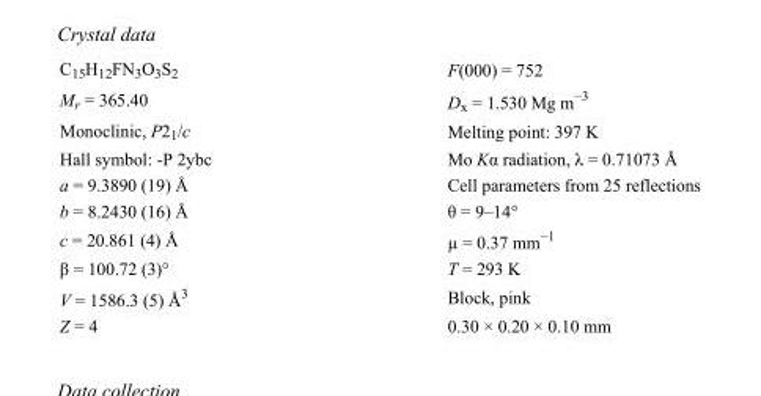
<table><tbody><tr><td>C<sub>15</sub>H<sub>12</sub>FN<sub>3</sub>O<sub>3</sub>S<sub>2</sub></td><td>F(000) = 752</td></tr><tr><td>M<sub>r</sub> = 365.40</td><td>D<sub>x</sub> = 1.530 Mg m<sup>−3</sup></td></tr><tr><td>Monoclinic, P2<sub>1</sub>/c</td><td>Melting point: 397 K</td></tr><tr><td>Hall symbol: -P 2ybc</td><td>Mo Kα radiation, λ = 0.71073 Å</td></tr><tr><td>a = 9.3890 (19) Å</td><td>Cell parameters from 25 reflections</td></tr><tr><td>b = 8.2430 (16) Å</td><td>θ = 9–14°</td></tr><tr><td>c = 20.861 (4) Å</td><td>µ = 0.37 mm<sup>−1</sup></td></tr><tr><td>β = 100.72 (3)°</td><td>T = 293 K</td></tr><tr><td>V = 1586.3 (5) Å<sup>3</sup></td><td>Block, pink</td></tr><tr><td>Z = 4</td><td>0.30 × 0.20 × 0.10 mm</td></tr></tbody></table>